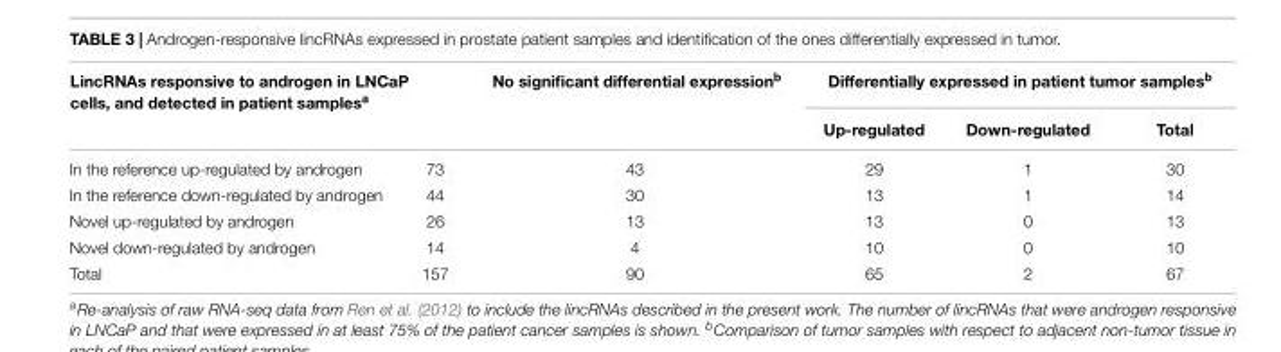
<table><thead><tr><td colspan="2">LincRNAs responsive to androgen in LNCaP cells, and detected in patient samples<sup>a</sup></td><td rowspan="2">No significant differential expression<sup>b</sup></td><td colspan="3">Differentially expressed in patient tumor samples<sup>b</sup></td></tr><tr><td></td><td></td><td>Up-regulated</td><td>Down-regulated</td><td>Total</td></tr></thead><tbody><tr><td>In the reference up-regulated by androgen</td><td>73</td><td>43</td><td>29</td><td>1</td><td>30</td></tr><tr><td>In the reference down-regulated by androgen</td><td>44</td><td>30</td><td>13</td><td>1</td><td>14</td></tr><tr><td>Novel up-regulated by androgen</td><td>26</td><td>13</td><td>13</td><td>0</td><td>13</td></tr><tr><td>Novel down-regulated by androgen</td><td>14</td><td>4</td><td>10</td><td>0</td><td>10</td></tr><tr><td>Total</td><td>157</td><td>90</td><td>65</td><td>2</td><td>67</td></tr></tbody></table>